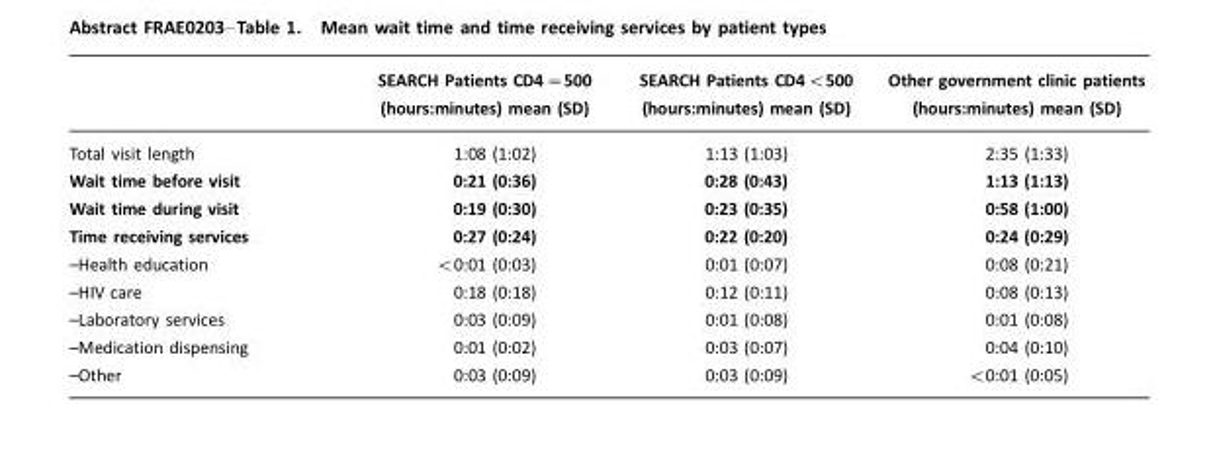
<table><thead><tr><td></td><td>SEARCH Patients CD4=500 (hours:minutes) mean (SD)</td><td>SEARCH Patients CD4&lt;500 (hours:minutes) mean (SD)</td><td>Other government clinic patients (hours:minutes) mean (SD)</td></tr></thead><tbody><tr><td>Total visit length</td><td>1:08 (1:02)</td><td>1:13 (1:03)</td><td>2:35 (1:33)</td></tr><tr><td>Wait time before visit</td><td>0:21 (0:36)</td><td>0:28 (0:43)</td><td>1:13 (1:13)</td></tr><tr><td>Wait time during visit</td><td>0:19 (0:30)</td><td>0:23 (0:35)</td><td>0:58 (1:00)</td></tr><tr><td>Time receiving services</td><td>0:27 (0:24)</td><td>0:22 (0:20)</td><td>0:24 (0:29)</td></tr><tr><td>–Health education</td><td>&lt;0:01 (0:03)</td><td>0:01 (0:07)</td><td>0:08 (0:21)</td></tr><tr><td>–HIV care</td><td>0:18 (0:18)</td><td>0:12 (0:11)</td><td>0:08 (0:13)</td></tr><tr><td>–Laboratory services</td><td>0:03 (0:09)</td><td>0:01 (0:08)</td><td>0:01 (0:08)</td></tr><tr><td>–Medication dispensing</td><td>0:01 (0:02)</td><td>0:03 (0:07)</td><td>0:04 (0:10)</td></tr><tr><td>–Other</td><td>0:03 (0:09)</td><td>0:03 (0:09)</td><td>&lt;0:01 (0:05)</td></tr></tbody></table>